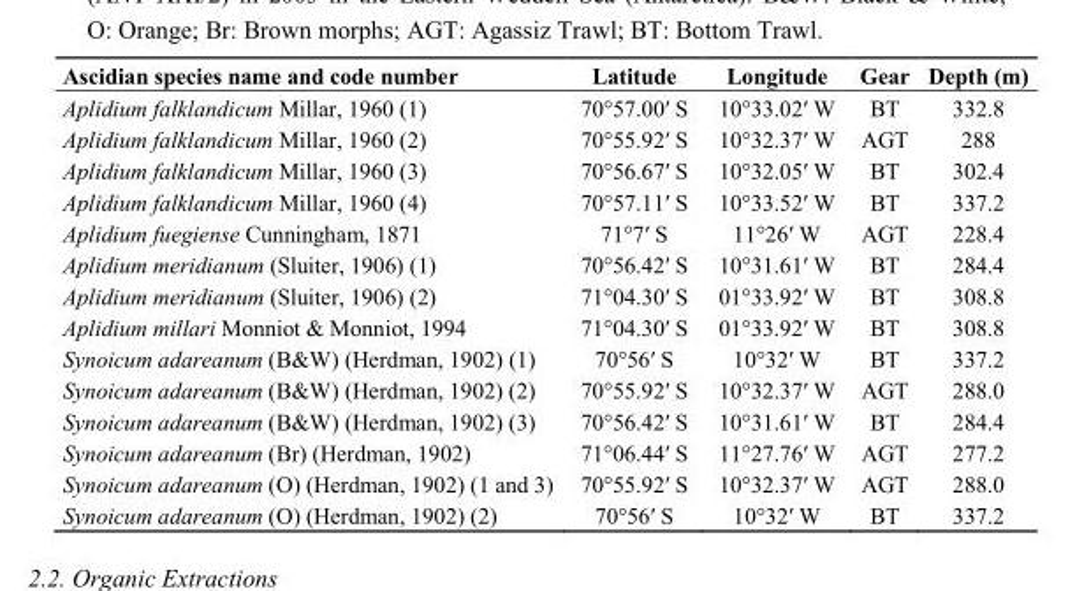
<table><thead><tr><td>Ascidian species name and code number</td><td>Latitude</td><td>Longitude</td><td>Gear</td><td>Depth (m)</td></tr></thead><tbody><tr><td>Aplidium falklandicum Millar, 1960 (1)</td><td>70°57.00′ S</td><td>10°33.02′ W</td><td>BT</td><td>332.8</td></tr><tr><td>Aplidium falklandicum Millar, 1960 (2)</td><td>70°55.92′ S</td><td>10°32.37′ W</td><td>AGT</td><td>288</td></tr><tr><td>Aplidium falklandicum Millar, 1960 (3)</td><td>70°56.67′ S</td><td>10°32.05′ W</td><td>BT</td><td>302.4</td></tr><tr><td>Aplidium falklandicum Millar, 1960 (4)</td><td>70°57.11′ S</td><td>10°33.52′ W</td><td>BT</td><td>337.2</td></tr><tr><td>Aplidium fuegiense Cunningham, 1871</td><td>71°7′ S</td><td>11°26′ W</td><td>AGT</td><td>228.4</td></tr><tr><td>Aplidium meridianum (Sluiter, 1906) (1)</td><td>70°56.42′ S</td><td>10°31.61′ W</td><td>BT</td><td>284.4</td></tr><tr><td>Aplidium meridianum (Sluiter, 1906) (2)</td><td>71°04.30′ S</td><td>01°33.92′ W</td><td>BT</td><td>308.8</td></tr><tr><td>Aplidium millari Monniot &amp; Monniot, 1994</td><td>71°04.30′ S</td><td>01°33.92′ W</td><td>BT</td><td>308.8</td></tr><tr><td>Synoicum adareanum (B&amp;W) (Herdman, 1902) (1)</td><td>70°56′ S</td><td>10°32′ W</td><td>BT</td><td>337.2</td></tr><tr><td>Synoicum adareanum (B&amp;W) (Herdman, 1902) (2)</td><td>70°55.92′ S</td><td>10°32.37′ W</td><td>AGT</td><td>288.0</td></tr><tr><td>Synoicum adareanum (B&amp;W) (Herdman, 1902) (3)</td><td>70°56.42′ S</td><td>10°31.61′ W</td><td>BT</td><td>284.4</td></tr><tr><td>Synoicum adareanum (Br) (Herdman, 1902)</td><td>71°06.44′ S</td><td>11°27.76′ W</td><td>AGT</td><td>277.2</td></tr><tr><td>Synoicum adareanum (O) (Herdman, 1902) (1 and 3)</td><td>70°55.92′ S</td><td>10°32.37′ W</td><td>AGT</td><td>288.0</td></tr><tr><td>Synoicum adareanum (O) (Herdman, 1902) (2)</td><td>70°56′ S</td><td>10°32′ W</td><td>BT</td><td>337.2</td></tr></tbody></table>